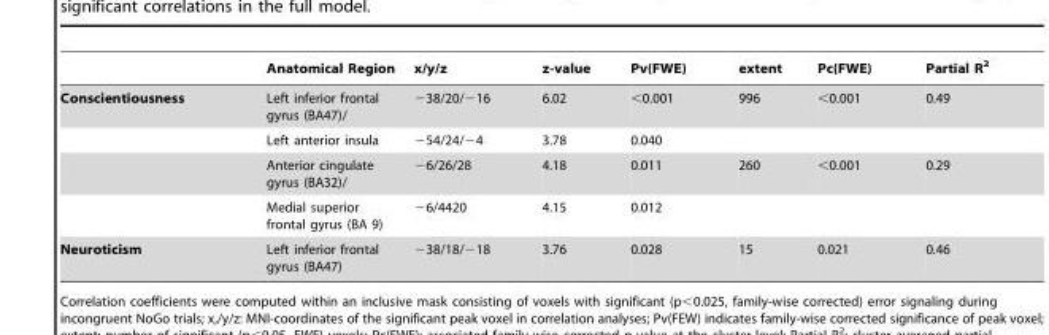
<table><thead><tr><td></td><td>Anatomical Region</td><td>x/y/z</td><td>z-value</td><td>Pv(FWE)</td><td>extent</td><td>Pc(FWE)</td><td>Partial R<sup>2</sup></td></tr></thead><tbody><tr><td rowspan="4">Conscientiousness</td><td>Left inferior frontal gyrus (BA47)/</td><td>−38/20/−16</td><td>6.02</td><td>&lt;0.001</td><td>996</td><td>&lt;0.001</td><td>0.49</td></tr><tr><td>Left anterior insula</td><td>−54/24/−4</td><td>3.78</td><td>0.040</td><td></td><td></td><td></td></tr><tr><td>Anterior cingulate gyrus (BA32)/</td><td>−6/26/28</td><td>4.18</td><td>0.011</td><td>260</td><td>&lt;0.001</td><td>0.29</td></tr><tr><td>Medial superior frontal gyrus (BA 9)</td><td>−6/4420</td><td>4.15</td><td>0.012</td><td></td><td></td><td></td></tr><tr><td>Neuroticism</td><td>Left inferior frontal gyrus (BA47)</td><td>−38/18/−18</td><td>3.76</td><td>0.028</td><td>15</td><td>0.021</td><td>0.46</td></tr></tbody></table>